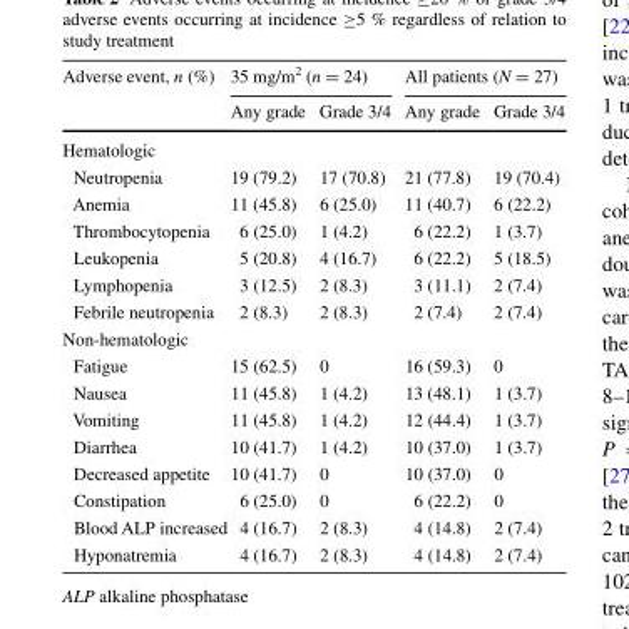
<table><thead><tr><td rowspan="2">Adverse event, n (%)</td><td colspan="2">35 mg/m<sup>2</sup> (n = 24)</td><td colspan="2">All patients (N = 27)</td></tr><tr><td>Any grade</td><td>Grade 3/4</td><td>Any grade</td><td>Grade 3/4</td></tr></thead><tbody><tr><td colspan="5">Hematologic</td></tr><tr><td>Neutropenia</td><td>19 (79.2)</td><td>17 (70.8)</td><td>21 (77.8)</td><td>19 (70.4)</td></tr><tr><td>Anemia</td><td>11 (45.8)</td><td>6 (25.0)</td><td>11 (40.7)</td><td>6 (22.2)</td></tr><tr><td>Thrombocytopenia</td><td>6 (25.0)</td><td>1 (4.2)</td><td>6 (22.2)</td><td>1 (3.7)</td></tr><tr><td>Leukopenia</td><td>5 (20.8)</td><td>4 (16.7)</td><td>6 (22.2)</td><td>5 (18.5)</td></tr><tr><td>Lymphopenia</td><td>3 (12.5)</td><td>2 (8.3)</td><td>3 (11.1)</td><td>2 (7.4)</td></tr><tr><td>Febrile neutropenia</td><td>2 (8.3)</td><td>2 (8.3)</td><td>2 (7.4)</td><td>2 (7.4)</td></tr><tr><td colspan="5">Non-hematologic</td></tr><tr><td>Fatigue</td><td>15 (62.5)</td><td>0</td><td>16 (59.3)</td><td>0</td></tr><tr><td>Nausea</td><td>11 (45.8)</td><td>1 (4.2)</td><td>13 (48.1)</td><td>1 (3.7)</td></tr><tr><td>Vomiting</td><td>11 (45.8)</td><td>1 (4.2)</td><td>12 (44.4)</td><td>1 (3.7)</td></tr><tr><td>Diarrhea</td><td>10 (41.7)</td><td>1 (4.2)</td><td>10 (37.0)</td><td>1 (3.7)</td></tr><tr><td>Decreased appetite</td><td>10 (41.7)</td><td>0</td><td>10 (37.0)</td><td>0</td></tr><tr><td>Constipation</td><td>6 (25.0)</td><td>0</td><td>6 (22.2)</td><td>0</td></tr><tr><td>Blood ALP increased</td><td>4 (16.7)</td><td>2 (8.3)</td><td>4 (14.8)</td><td>2 (7.4)</td></tr><tr><td>Hyponatremia</td><td>4 (16.7)</td><td>2 (8.3)</td><td>4 (14.8)</td><td>2 (7.4)</td></tr></tbody></table>